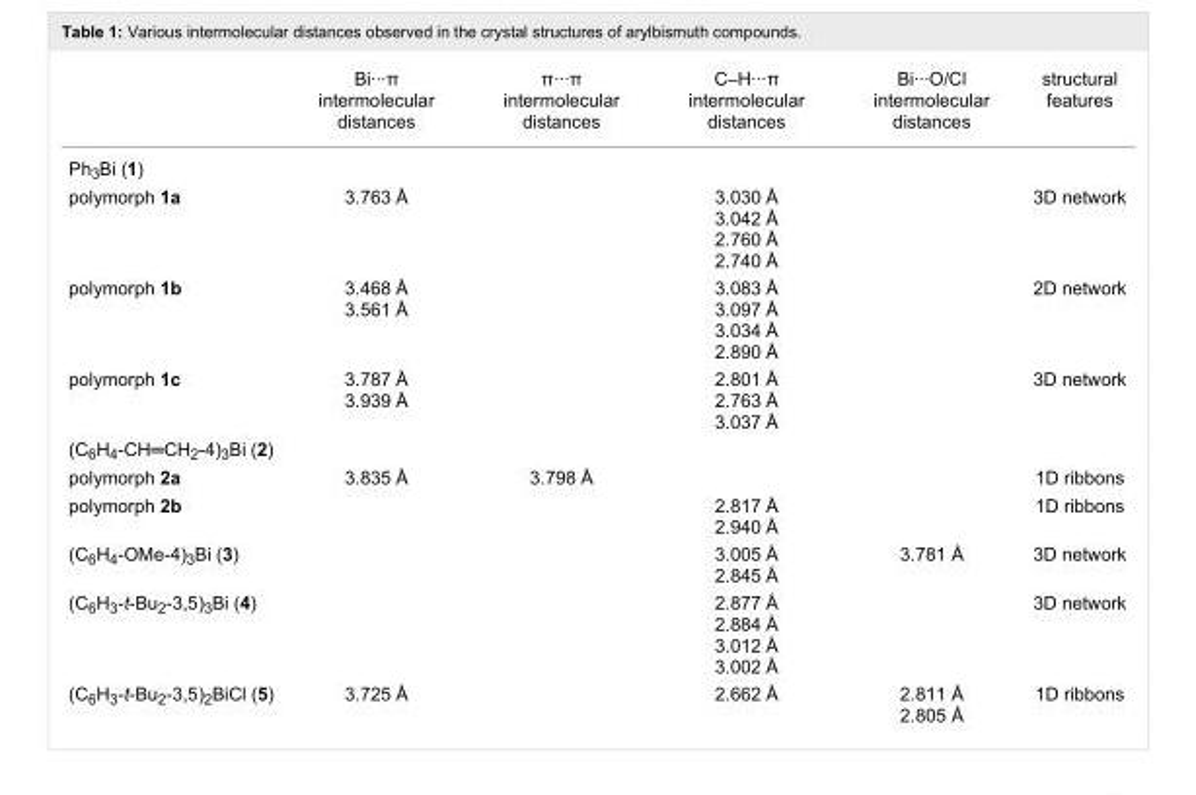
<table><thead><tr><td></td><td>Bi···π intermolecular distances</td><td>π···π intermolecular distances</td><td>C–H···π intermolecular distances</td><td>Bi···O/Cl intermolecular distances</td><td>structural features</td></tr></thead><tbody><tr><td colspan="6">Ph<sub>3</sub>Bi (1)</td></tr><tr><td>polymorph 1a</td><td>3.763 Å</td><td></td><td>3.030 Å 3.042 Å 2.760 Å 2.740 Å</td><td></td><td>3D network</td></tr><tr><td>polymorph 1b</td><td>3.468 Å 3.561 Å</td><td></td><td>3.083 Å 3.097 Å 3.034 Å 2.890 Å</td><td></td><td>2D network</td></tr><tr><td>polymorph 1c</td><td>3.787 Å 3.939 Å</td><td></td><td>2.801 Å 2.763 Å 3.037 Å</td><td></td><td>3D network</td></tr><tr><td colspan="6">(C<sub>6</sub>H<sub>4</sub>-CH═CH<sub>2</sub>-4)<sub>3</sub>Bi (2)</td></tr><tr><td>polymorph 2a</td><td>3.835 Å</td><td>3.798 Å</td><td></td><td></td><td>1D ribbons</td></tr><tr><td>polymorph 2b</td><td></td><td></td><td>2.817 Å 2.940 Å</td><td></td><td>1D ribbons</td></tr><tr><td>(C<sub>6</sub>H<sub>4</sub>-OMe-4)<sub>3</sub>Bi (3)</td><td></td><td></td><td>3.005 Å 2.845 Å</td><td>3.781 Å</td><td>3D network</td></tr><tr><td>(C<sub>6</sub>H<sub>3</sub>-t-Bu<sub>2</sub>-3,5)<sub>3</sub>Bi (4)</td><td></td><td></td><td>2.877 Å 2.884 Å 3.012 Å 3.002 Å</td><td></td><td>3D network</td></tr><tr><td>(C<sub>6</sub>H<sub>3</sub>-t-Bu<sub>2</sub>-3,5)<sub>2</sub>BiCl (5)</td><td>3.725 Å</td><td></td><td>2.662 Å</td><td>2.811 Å 2.805 Å</td><td>1D ribbons</td></tr></tbody></table>